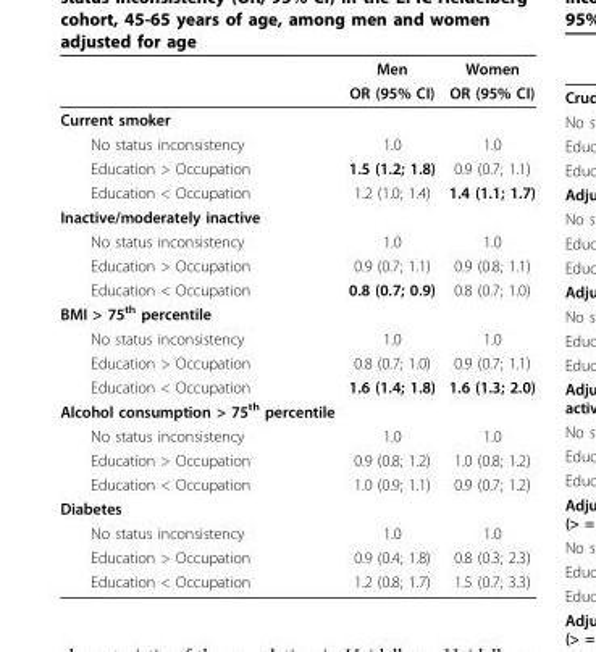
<table><thead><tr><td rowspan="2"></td><td rowspan="2">Men OR (95% CI)</td><td rowspan="2">Women OR (95% CI)</td></tr><tr></tr></thead><tbody><tr><td colspan="3">Current smoker</td></tr><tr><td>No status inconsistency</td><td>1.0</td><td>1.0</td></tr><tr><td>Education &gt; Occupation</td><td>1.5 (1.2; 1.8)</td><td>0.9 (0.7; 1.1)</td></tr><tr><td>Education &lt; Occupation</td><td>1.2 (1.0; 1.4)</td><td>1.4 (1.1; 1.7)</td></tr><tr><td colspan="3">Inactive/moderately inactive</td></tr><tr><td>No status inconsistency</td><td>1.0</td><td>1.0</td></tr><tr><td>Education &gt; Occupation</td><td>0.9 (0.7; 1.1)</td><td>0.9 (0.8; 1.1)</td></tr><tr><td>Education &lt; Occupation</td><td>0.8 (0.7; 0.9)</td><td>0.8 (0.7; 1.0)</td></tr><tr><td colspan="3">BMI &gt; 75<sup>th</sup> percentile</td></tr><tr><td>No status inconsistency</td><td>1.0</td><td>1.0</td></tr><tr><td>Education &gt; Occupation</td><td>0.8 (0.7; 1.0)</td><td>0.9 (0.7; 1.1)</td></tr><tr><td>Education &lt; Occupation</td><td>1.6 (1.4; 1.8)</td><td>1.6 (1.3; 2.0)</td></tr><tr><td colspan="3">Alcohol consumption &gt; 75<sup>th</sup> percentile</td></tr><tr><td>No status inconsistency</td><td>1.0</td><td>1.0</td></tr><tr><td>Education &gt; Occupation</td><td>0.9 (0.8; 1.2)</td><td>1.0 (0.8; 1.2)</td></tr><tr><td>Education &lt; Occupation</td><td>1.0 (0.9; 1.1)</td><td>0.9 (0.7; 1.2)</td></tr><tr><td colspan="3">Diabetes</td></tr><tr><td>No status inconsistency</td><td>1.0</td><td>1.0</td></tr><tr><td>Education &gt; Occupation</td><td>0.9 (0.4; 1.8)</td><td>0.8 (0.3; 2.3)</td></tr><tr><td>Education &lt; Occupation</td><td>1.2 (0.8; 1.7)</td><td>1.5 (0.7; 3.3)</td></tr></tbody></table>